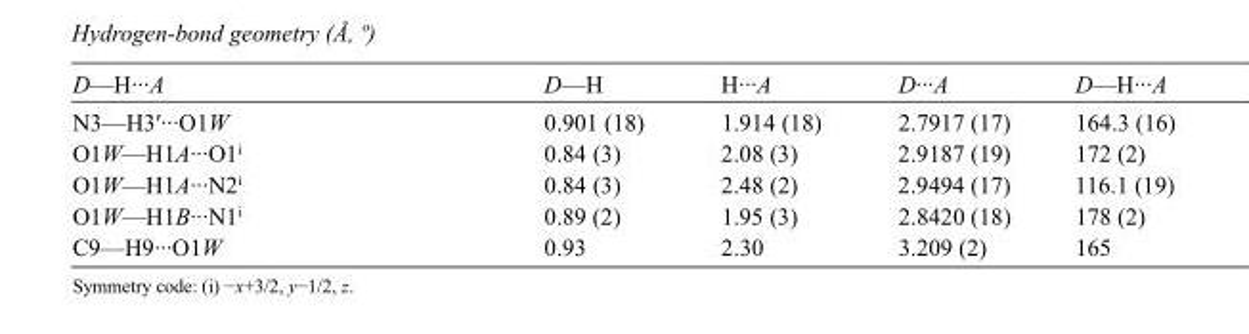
<table><tbody><tr><td>D—H···A</td><td>D—H</td><td>H···A</td><td>D···A</td><td>D—H···A</td></tr><tr><td>N3—H3′···O1W</td><td>0.901 (18)</td><td>1.914 (18)</td><td>2.7917 (17)</td><td>164.3 (16)</td></tr><tr><td>O1W—H1A···O1<sup>i</sup></td><td>0.84 (3)</td><td>2.08 (3)</td><td>2.9187 (19)</td><td>172 (2)</td></tr><tr><td>O1W—H1A···N2<sup>i</sup></td><td>0.84 (3)</td><td>2.48 (2)</td><td>2.9494 (17)</td><td>116.1 (19)</td></tr><tr><td>O1W—H1B···N1<sup>i</sup></td><td>0.89 (2)</td><td>1.95 (3)</td><td>2.8420 (18)</td><td>178 (2)</td></tr><tr><td>C9—H9···O1W</td><td>0.93</td><td>2.30</td><td>3.209 (2)</td><td>165</td></tr></tbody></table>